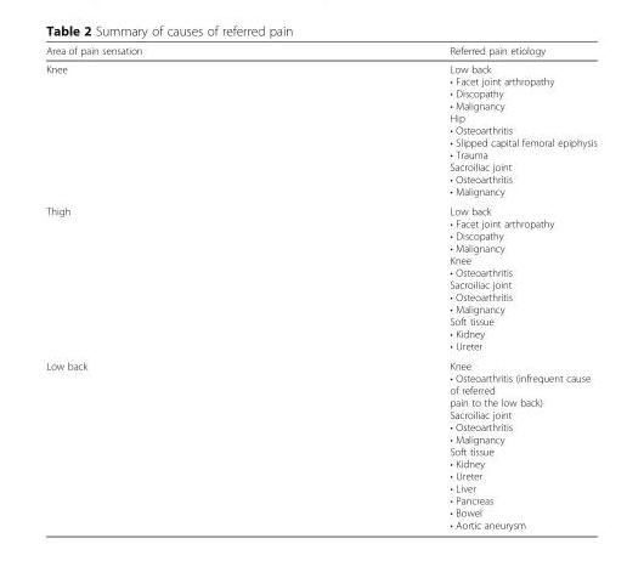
<table><thead><tr><td>Area of pain sensation</td><td>Referred pain etiology</td></tr></thead><tbody><tr><td>Knee</td><td>Low back • Facet joint arthropathy • Discopathy • Malignancy Hip • Osteoarthritis • Slipped capital femoral epiphysis • Trauma Sacroiliac joint • Osteoarthritis • Malignancy</td></tr><tr><td>Thigh</td><td>Low back • Facet joint arthropathy • Discopathy • Malignancy Knee • Osteoarthritis Sacroiliac joint • Osteoarthritis • Malignancy Soft tissue • Kidney • Ureter</td></tr><tr><td>Low back</td><td>Knee • Osteoarthritis (infrequent cause of referred pain to the low back) Sacroiliac joint • Osteoarthritis • Malignancy Soft tissue • Kidney • Ureter • Liver • Pancreas • Bowel • Aortic aneurysm</td></tr></tbody></table>